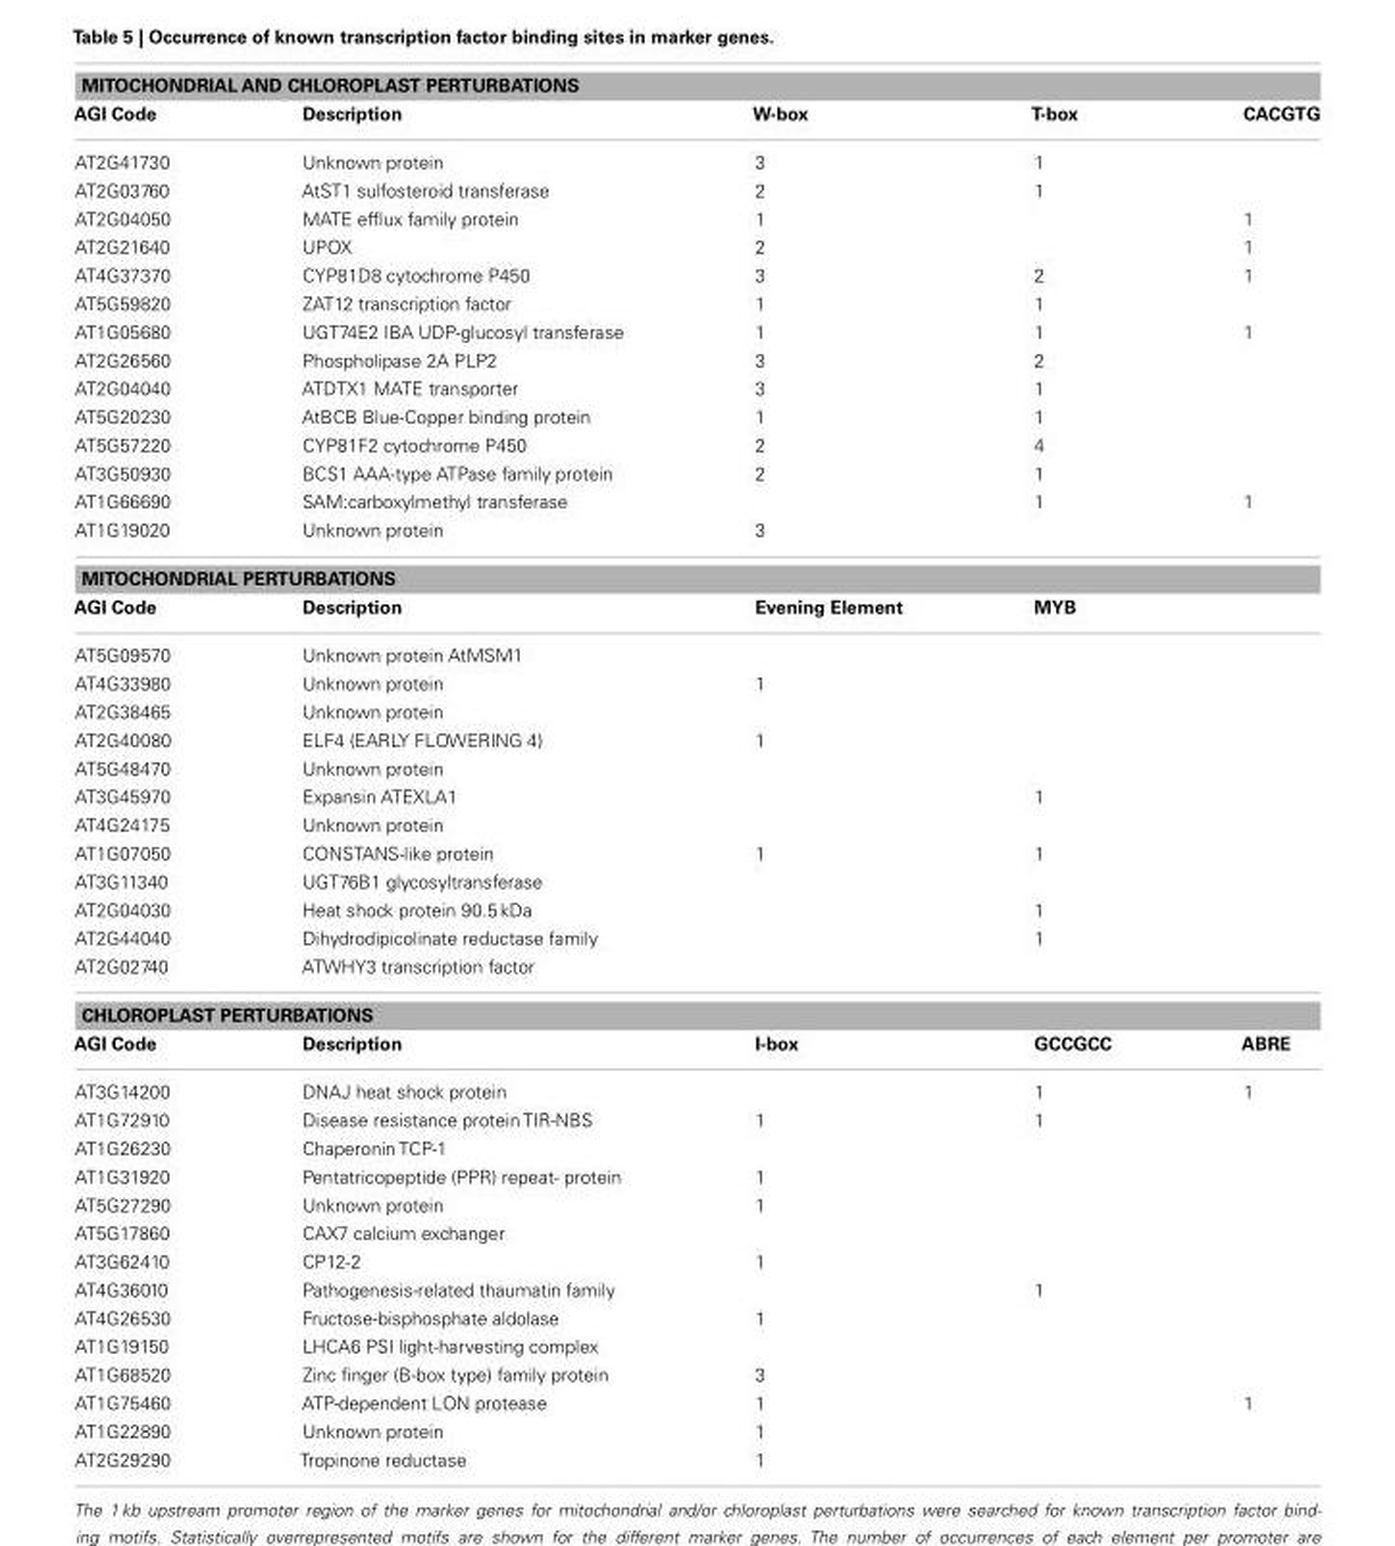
<table><thead><tr><td colspan="5">MITOCHONDRIAL AND CHLOROPLAST PERTURBATIONS</td></tr><tr><td>AGI Code</td><td>Description</td><td>W-box</td><td>T-box</td><td>CACGTG</td></tr></thead><tbody><tr><td>AT2G41730</td><td>Unknown protein</td><td>3</td><td>1</td><td></td></tr><tr><td>AT2G03760</td><td>AtST1 sulfosteroid transferase</td><td>2</td><td>1</td><td></td></tr><tr><td>AT2G04050</td><td>MATE efflux family protein</td><td>1</td><td></td><td>1</td></tr><tr><td>AT2G21640</td><td>UPOX</td><td>2</td><td></td><td>1</td></tr><tr><td>AT4G37370</td><td>CYP81D8 cytochrome P450</td><td>3</td><td>2</td><td>1</td></tr><tr><td>AT5G59820</td><td>ZAT12 transcription factor</td><td>1</td><td>1</td><td></td></tr><tr><td>AT1G05680</td><td>UGT74E2 IBA UDP-glucosyl transferase</td><td>1</td><td>1</td><td>1</td></tr><tr><td>AT2G26560</td><td>Phospholipase 2A PLP2</td><td>3</td><td>2</td><td></td></tr><tr><td>AT2G04040</td><td>ATDTX1 MATE transporter</td><td>3</td><td>1</td><td></td></tr><tr><td>AT5G20230</td><td>AtBCB Blue-Copper binding protein</td><td>1</td><td>1</td><td></td></tr><tr><td>AT5G57220</td><td>CYP81F2 cytochrome P450</td><td>2</td><td>4</td><td></td></tr><tr><td>AT3G50930</td><td>BCS1 AAA-type ATPase family protein</td><td>2</td><td>1</td><td></td></tr><tr><td>AT1G66690</td><td>SAM:carboxylmethyl transferase</td><td></td><td>1</td><td>1</td></tr><tr><td>AT1G19020</td><td>Unknown protein</td><td>3</td><td></td><td></td></tr><tr><td colspan="5">MITOCHONDRIAL PERTURBATIONS</td></tr><tr><td>AGI Code</td><td>Description</td><td>Evening Element</td><td>MYB</td><td></td></tr><tr><td>AT5G09570</td><td>Unknown protein AtMSM1</td><td></td><td></td><td></td></tr><tr><td>AT4G33980</td><td>Unknown protein</td><td>1</td><td></td><td></td></tr><tr><td>AT2G38465</td><td>Unknown protein</td><td></td><td></td><td></td></tr><tr><td>AT2G40080</td><td>ELF4 (EARLY FLOWERING 4)</td><td>1</td><td></td><td></td></tr><tr><td>AT5G48470</td><td>Unknown protein</td><td></td><td></td><td></td></tr><tr><td>AT3G45970</td><td>Expansin ATEXLA1</td><td></td><td>1</td><td></td></tr><tr><td>AT4G24175</td><td>Unknown protein</td><td></td><td></td><td></td></tr><tr><td>AT1G07050</td><td>CONSTANS-like protein</td><td>1</td><td>1</td><td></td></tr><tr><td>AT3G11340</td><td>UGT76B1 glycosyltransferase</td><td></td><td></td><td></td></tr><tr><td>AT2G04030</td><td>Heat shock protein 90.5 kDa</td><td></td><td>1</td><td></td></tr><tr><td>AT2G44040</td><td>Dihydrodipicolinate reductase family</td><td></td><td>1</td><td></td></tr><tr><td>AT2G02740</td><td>ATWHY3 transcription factor</td><td></td><td></td><td></td></tr><tr><td colspan="5">CHLOROPLAST PERTURBATIONS</td></tr><tr><td>AGI Code</td><td>Description</td><td>I-box</td><td>GCCGCC</td><td>ABRE</td></tr><tr><td>AT3G14200</td><td>DNAJ heat shock protein</td><td></td><td>1</td><td>1</td></tr><tr><td>AT1G72910</td><td>Disease resistance protein TIR-NBS</td><td>1</td><td>1</td><td></td></tr><tr><td>AT1G26230</td><td>Chaperonin TCP-1</td><td></td><td></td><td></td></tr><tr><td>AT1G31920</td><td>Pentatricopeptide (PPR) repeat- protein</td><td>1</td><td></td><td></td></tr><tr><td>AT5G27290</td><td>Unknown protein</td><td>1</td><td></td><td></td></tr><tr><td>AT5G17860</td><td>CAX7 calcium exchanger</td><td></td><td></td><td></td></tr><tr><td>AT3G62410</td><td>CP12-2</td><td>1</td><td></td><td></td></tr><tr><td>AT4G36010</td><td>Pathogenesis-related thaumatin family</td><td></td><td>1</td><td></td></tr><tr><td>AT4G26530</td><td>Fructose-bisphosphate aldolase</td><td>1</td><td></td><td></td></tr><tr><td>AT1G19150</td><td>LHCA6 PSI light-harvesting complex</td><td></td><td></td><td></td></tr><tr><td>AT1G68520</td><td>Zinc finger (B-box type) family protein</td><td>3</td><td></td><td></td></tr><tr><td>AT1G75460</td><td>ATP-dependent LON protease</td><td>1</td><td></td><td>1</td></tr><tr><td>AT1G22890</td><td>Unknown protein</td><td>1</td><td></td><td></td></tr><tr><td>AT2G29290</td><td>Tropinone reductase</td><td>1</td><td></td><td></td></tr></tbody></table>